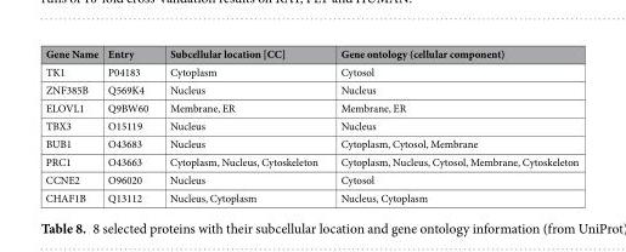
<table><thead><tr><td>Gene Name</td><td>Entry</td><td>Subcellular location [CC]</td><td>Gene ontology (cellular component)</td></tr></thead><tbody><tr><td>TK1</td><td>P04183</td><td>Cytoplasm</td><td>Cytosol</td></tr><tr><td>ZNF385B</td><td>Q569K4</td><td>Nucleus</td><td>Nucleus</td></tr><tr><td>ELOVL1</td><td>Q9BW60</td><td>Membrane, ER</td><td>Membrane, ER</td></tr><tr><td>TBX3</td><td>O15119</td><td>Nucleus</td><td>Nucleus</td></tr><tr><td>BUB1</td><td>O43683</td><td>Nucleus</td><td>Cytoplasm, Cytosol, Membrane</td></tr><tr><td>PRC1</td><td>O43663</td><td>Cytoplasm, Nucleus, Cytoskeleton</td><td>Cytoplasm, Nucleus, Cytosol, Membrane, Cytoskeleton</td></tr><tr><td>CCNE2</td><td>O96020</td><td>Nucleus</td><td>Cytosol</td></tr><tr><td>CHAF1B</td><td>Q13112</td><td>Nucleus, Cytoplasm</td><td>Nucleus, Cytoplasm</td></tr></tbody></table>